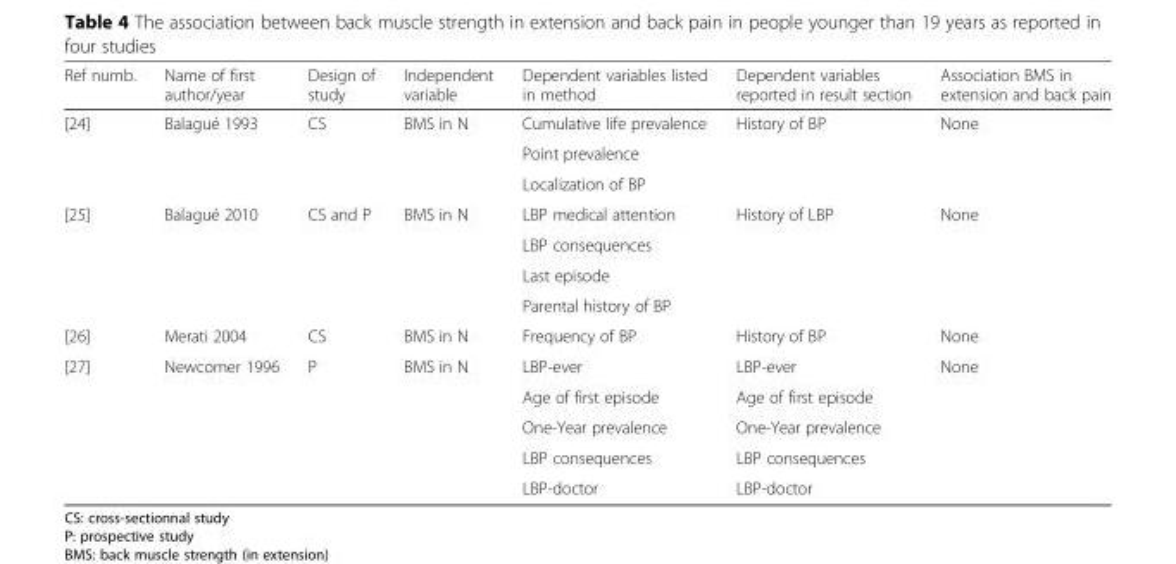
<table><thead><tr><td>Ref numb.</td><td>Name of first author/year</td><td>Design of study</td><td>Independent variable</td><td>Dependent variables listed in method</td><td>Dependent variables reported in result section</td><td>Association BMS in extension and back pain</td></tr></thead><tbody><tr><td rowspan="3">[24]</td><td rowspan="3">Balagué 1993</td><td rowspan="3">CS</td><td rowspan="3">BMS in N</td><td>Cumulative life prevalence</td><td rowspan="3">History of BP</td><td rowspan="3">None</td></tr><tr><td>Point prevalence</td></tr><tr><td>Localization of BP</td></tr><tr><td rowspan="4">[25]</td><td rowspan="4">Balagué 2010</td><td rowspan="4">CS and P</td><td rowspan="4">BMS in N</td><td>LBP medical attention</td><td rowspan="4">History of LBP</td><td rowspan="4">None</td></tr><tr><td>LBP consequences</td></tr><tr><td>Last episode</td></tr><tr><td>Parental history of BP</td></tr><tr><td>[26]</td><td>Merati 2004</td><td>CS</td><td>BMS in N</td><td>Frequency of BP</td><td>History of BP</td><td>None</td></tr><tr><td rowspan="5">[27]</td><td rowspan="5">Newcomer 1996</td><td rowspan="5">P</td><td rowspan="5">BMS in N</td><td>LBP-ever</td><td>LBP-ever</td><td rowspan="5">None</td></tr><tr><td>Age of first episode</td><td>Age of first episode</td></tr><tr><td>One-Year prevalence</td><td>One-Year prevalence</td></tr><tr><td>LBP consequences</td><td>LBP consequences</td></tr><tr><td>LBP-doctor</td><td>LBP-doctor</td></tr></tbody></table>